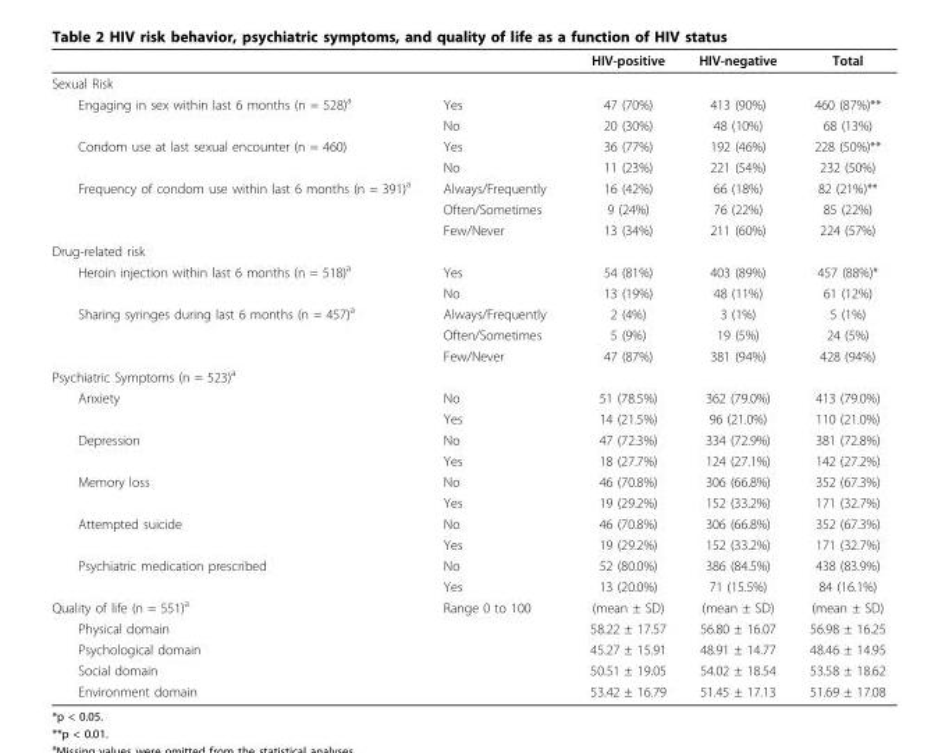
<table><thead><tr><td></td><td></td><td>HIV-positive</td><td>HIV-negative</td><td>Total</td></tr></thead><tbody><tr><td colspan="5">Sexual Risk</td></tr><tr><td rowspan="2">Engaging in sex within last 6 months (n = 528)<sup>a</sup></td><td>Yes</td><td>47 (70%)</td><td>413 (90%)</td><td>460 (87%)**</td></tr><tr><td>No</td><td>20 (30%)</td><td>48 (10%)</td><td>68 (13%)</td></tr><tr><td rowspan="2">Condom use at last sexual encounter (n = 460)</td><td>Yes</td><td>36 (77%)</td><td>192 (46%)</td><td>228 (50%)**</td></tr><tr><td>No</td><td>11 (23%)</td><td>221 (54%)</td><td>232 (50%)</td></tr><tr><td rowspan="3">Frequency of condom use within last 6 months (n = 391)<sup>a</sup></td><td>Always/Frequently</td><td>16 (42%)</td><td>66 (18%)</td><td>82 (21%)**</td></tr><tr><td>Often/Sometimes</td><td>9 (24%)</td><td>76 (22%)</td><td>85 (22%)</td></tr><tr><td>Few/Never</td><td>13 (34%)</td><td>211 (60%)</td><td>224 (57%)</td></tr><tr><td colspan="5">Drug-related risk</td></tr><tr><td rowspan="2">Heroin injection within last 6 months (n = 518)<sup>a</sup></td><td>Yes</td><td>54 (81%)</td><td>403 (89%)</td><td>457 (88%)*</td></tr><tr><td>No</td><td>13 (19%)</td><td>48 (11%)</td><td>61 (12%)</td></tr><tr><td rowspan="3">Sharing syringes during last 6 months (n = 457)<sup>a</sup></td><td>Always/Frequently</td><td>2 (4%)</td><td>3 (1%)</td><td>5 (1%)</td></tr><tr><td>Often/Sometimes</td><td>5 (9%)</td><td>19 (5%)</td><td>24 (5%)</td></tr><tr><td>Few/Never</td><td>47 (87%)</td><td>381 (94%)</td><td>428 (94%)</td></tr><tr><td colspan="5">Psychiatric Symptoms (n = 523)<sup>a</sup></td></tr><tr><td rowspan="2">Anxiety</td><td>No</td><td>51 (78.5%)</td><td>362 (79.0%)</td><td>413 (79.0%)</td></tr><tr><td>Yes</td><td>14 (21.5%)</td><td>96 (21.0%)</td><td>110 (21.0%)</td></tr><tr><td rowspan="2">Depression</td><td>No</td><td>47 (72.3%)</td><td>334 (72.9%)</td><td>381 (72.8%)</td></tr><tr><td>Yes</td><td>18 (27.7%)</td><td>124 (27.1%)</td><td>142 (27.2%)</td></tr><tr><td rowspan="2">Memory loss</td><td>No</td><td>46 (70.8%)</td><td>306 (66.8%)</td><td>352 (67.3%)</td></tr><tr><td>Yes</td><td>19 (29.2%)</td><td>152 (33.2%)</td><td>171 (32.7%)</td></tr><tr><td rowspan="2">Attempted suicide</td><td>No</td><td>46 (70.8%)</td><td>306 (66.8%)</td><td>352 (67.3%)</td></tr><tr><td>Yes</td><td>19 (29.2%)</td><td>152 (33.2%)</td><td>171 (32.7%)</td></tr><tr><td rowspan="2">Psychiatric medication prescribed</td><td>No</td><td>52 (80.0%)</td><td>386 (84.5%)</td><td>438 (83.9%)</td></tr><tr><td>Yes</td><td>13 (20.0%)</td><td>71 (15.5%)</td><td>84 (16.1%)</td></tr><tr><td>Quality of life (n = 551)<sup>a</sup></td><td>Range 0 to 100</td><td>(mean ± SD)</td><td>(mean ± SD)</td><td>(mean ± SD)</td></tr><tr><td>Physical domain</td><td></td><td>58.22 ± 17.57</td><td>56.80 ± 16.07</td><td>56.98 ± 16.25</td></tr><tr><td>Psychological domain</td><td></td><td>45.27 ± 15.91</td><td>48.91 ± 14.77</td><td>48.46 ± 14.95</td></tr><tr><td>Social domain</td><td></td><td>50.51 ± 19.05</td><td>54.02 ± 18.54</td><td>53.58 ± 18.62</td></tr><tr><td>Environment domain</td><td></td><td>53.42 ± 16.79</td><td>51.45 ± 17.13</td><td>51.69 ± 17.08</td></tr></tbody></table>